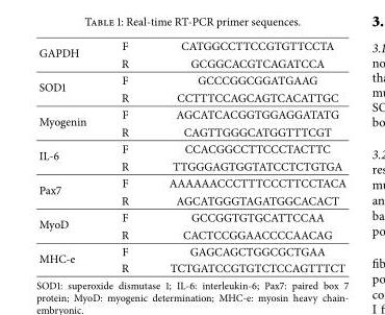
<table><tbody><tr><td rowspan="2">GAPDH</td><td>F</td><td>CATGGCCTTCCGTGTTCCTA</td></tr><tr><td>R</td><td>GCGGCACGTCAGATCCA</td></tr><tr><td rowspan="2">SOD1</td><td>F</td><td>GCCCGGCGGATGAAG</td></tr><tr><td>R</td><td>CCTTTCCAGCAGTCACATTGC</td></tr><tr><td rowspan="2">Myogenin</td><td>F</td><td>AGCATCACGGTGGAGGATATG</td></tr><tr><td>R</td><td>CAGTTGGGCATGGTTTCGT</td></tr><tr><td rowspan="2">IL-6</td><td>F</td><td>CCACGGCCTTCCCTACTTC</td></tr><tr><td>R</td><td>TTGGGAGTGGTATCCTCTGTGA</td></tr><tr><td rowspan="2">Pax7</td><td>F</td><td>AAAAAACCCTTTCCCTTCCTACA</td></tr><tr><td>R</td><td>AGCATGGGTAGATGGCACACT</td></tr><tr><td rowspan="2">MyoD</td><td>F</td><td>GCCGGTGTGCATTCCAA</td></tr><tr><td>R</td><td>CACTCCGGAACCCCAACAG</td></tr><tr><td rowspan="2">MHC-e</td><td>F</td><td>GAGCAGCTGGCGCTGAA</td></tr><tr><td>R</td><td>TCTGATCCGTGTCTCCAGTTTCT</td></tr></tbody></table>